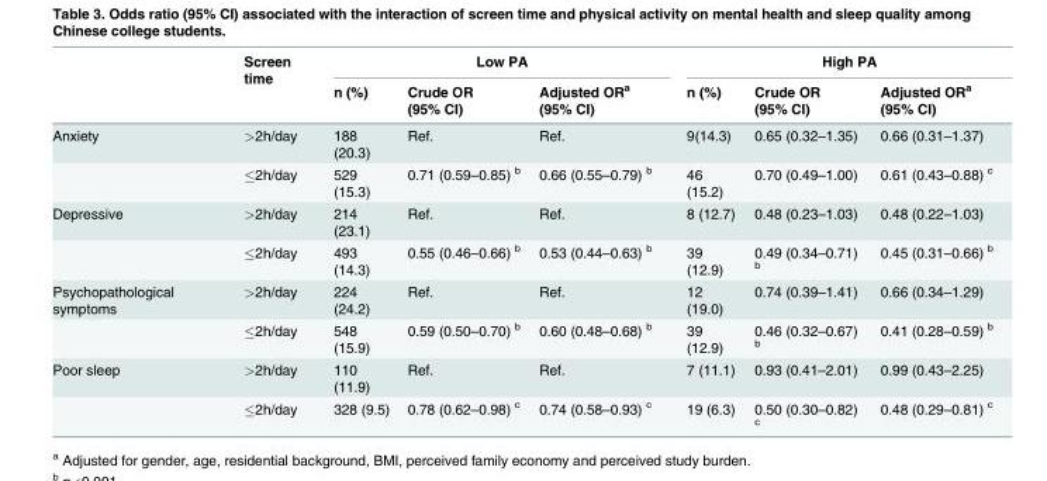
<table><thead><tr><td rowspan="2"></td><td rowspan="2">Screen time</td><td colspan="3">Low PA</td><td colspan="3">High PA</td></tr><tr><td>n (%)</td><td>Crude OR (95% CI)</td><td>Adjusted OR<sup>a</sup> (95% CI)</td><td>n (%)</td><td>Crude OR (95% CI)</td><td>Adjusted OR<sup>a</sup> (95% CI)</td></tr></thead><tbody><tr><td rowspan="2">Anxiety</td><td>&gt;2h/day</td><td>188 (20.3)</td><td>Ref.</td><td>Ref.</td><td>9(14.3)</td><td>0.65 (0.32–1.35)</td><td>0.66 (0.31–1.37)</td></tr><tr><td>≤2h/day</td><td>529 (15.3)</td><td>0.71 (0.59–0.85) <sup>b</sup></td><td>0.66 (0.55–0.79) <sup>b</sup></td><td>46 (15.2)</td><td>0.70 (0.49–1.00)</td><td>0.61 (0.43–0.88) <sup>c</sup></td></tr><tr><td rowspan="2">Depressive</td><td>&gt;2h/day</td><td>214 (23.1)</td><td>Ref.</td><td>Ref.</td><td>8 (12.7)</td><td>0.48 (0.23–1.03)</td><td>0.48 (0.22–1.03)</td></tr><tr><td>≤2h/day</td><td>493 (14.3)</td><td>0.55 (0.46–0.66) <sup>b</sup></td><td>0.53 (0.44–0.63) <sup>b</sup></td><td>39 (12.9)</td><td>0.49 (0.34–0.71) <sup>b</sup></td><td>0.45 (0.31–0.66) <sup>b</sup></td></tr><tr><td rowspan="2">Psychopathological symptoms</td><td>&gt;2h/day</td><td>224 (24.2)</td><td>Ref.</td><td>Ref.</td><td>12 (19.0)</td><td>0.74 (0.39–1.41)</td><td>0.66 (0.34–1.29)</td></tr><tr><td>≤2h/day</td><td>548 (15.9)</td><td>0.59 (0.50–0.70) <sup>b</sup></td><td>0.60 (0.48–0.68) <sup>b</sup></td><td>39 (12.9)</td><td>0.46 (0.32–0.67) <sup>b</sup></td><td>0.41 (0.28–0.59) <sup>b</sup></td></tr><tr><td rowspan="2">Poor sleep</td><td>&gt;2h/day</td><td>110 (11.9)</td><td>Ref.</td><td>Ref.</td><td>7 (11.1)</td><td>0.93 (0.41–2.01)</td><td>0.99 (0.43–2.25)</td></tr><tr><td>≤2h/day</td><td>328 (9.5)</td><td>0.78 (0.62–0.98) <sup>c</sup></td><td>0.74 (0.58–0.93) <sup>c</sup></td><td>19 (6.3)</td><td>0.50 (0.30–0.82) <sup>c</sup></td><td>0.48 (0.29–0.81) <sup>c</sup></td></tr></tbody></table>